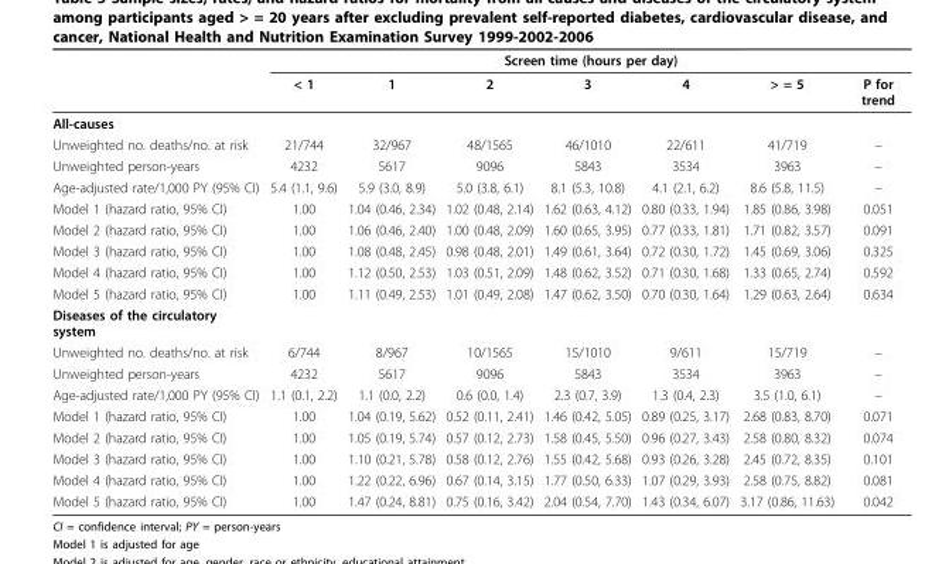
<table><thead><tr><td rowspan="2"></td><td colspan="7">Screen time (hours per day)</td></tr><tr><td>&lt; 1</td><td>1</td><td>2</td><td>3</td><td>4</td><td>&gt; = 5</td><td>P for trend</td></tr></thead><tbody><tr><td colspan="8">All-causes</td></tr><tr><td>Unweighted no. deaths/no. at risk</td><td>21/744</td><td>32/967</td><td>48/1565</td><td>46/1010</td><td>22/611</td><td>41/719</td><td>–</td></tr><tr><td>Unweighted person-years</td><td>4232</td><td>5617</td><td>9096</td><td>5843</td><td>3534</td><td>3963</td><td>–</td></tr><tr><td>Age-adjusted rate/1,000 PY (95% CI)</td><td>5.4 (1.1, 9.6)</td><td>5.9 (3.0, 8.9)</td><td>5.0 (3.8, 6.1)</td><td>8.1 (5.3, 10.8)</td><td>4.1 (2.1, 6.2)</td><td>8.6 (5.8, 11.5)</td><td>–</td></tr><tr><td>Model 1 (hazard ratio, 95% CI)</td><td>1.00</td><td>1.04 (0.46, 2.34)</td><td>1.02 (0.48, 2.14)</td><td>1.62 (0.63, 4.12)</td><td>0.80 (0.33, 1.94)</td><td>1.85 (0.86, 3.98)</td><td>0.051</td></tr><tr><td>Model 2 (hazard ratio, 95% CI)</td><td>1.00</td><td>1.06 (0.46, 2.40)</td><td>1.00 (0.48, 2.09)</td><td>1.60 (0.65, 3.95)</td><td>0.77 (0.33, 1.81)</td><td>1.71 (0.82, 3.57)</td><td>0.091</td></tr><tr><td>Model 3 (hazard ratio, 95% CI)</td><td>1.00</td><td>1.08 (0.48, 2.45)</td><td>0.98 (0.48, 2.01)</td><td>1.49 (0.61, 3.64)</td><td>0.72 (0.30, 1.72)</td><td>1.45 (0.69, 3.06)</td><td>0.325</td></tr><tr><td>Model 4 (hazard ratio, 95% CI)</td><td>1.00</td><td>1.12 (0.50, 2.53)</td><td>1.03 (0.51, 2.09)</td><td>1.48 (0.62, 3.52)</td><td>0.71 (0.30, 1.68)</td><td>1.33 (0.65, 2.74)</td><td>0.592</td></tr><tr><td>Model 5 (hazard ratio, 95% CI)</td><td>1.00</td><td>1.11 (0.49, 2.53)</td><td>1.01 (0.49, 2.08)</td><td>1.47 (0.62, 3.50)</td><td>0.70 (0.30, 1.64)</td><td>1.29 (0.63, 2.64)</td><td>0.634</td></tr><tr><td colspan="8">Diseases of the circulatory system</td></tr><tr><td>Unweighted no. deaths/no. at risk</td><td>6/744</td><td>8/967</td><td>10/1565</td><td>15/1010</td><td>9/611</td><td>15/719</td><td>–</td></tr><tr><td>Unweighted person-years</td><td>4232</td><td>5617</td><td>9096</td><td>5843</td><td>3534</td><td>3963</td><td>–</td></tr><tr><td>Age-adjusted rate/1,000 PY (95% CI)</td><td>1.1 (0.1, 2.2)</td><td>1.1 (0.0, 2.2)</td><td>0.6 (0.0, 1.4)</td><td>2.3 (0.7, 3.9)</td><td>1.3 (0.4, 2.3)</td><td>3.5 (1.0, 6.1)</td><td>–</td></tr><tr><td>Model 1 (hazard ratio, 95% CI)</td><td>1.00</td><td>1.04 (0.19, 5.62)</td><td>0.52 (0.11, 2.41)</td><td>1.46 (0.42, 5.05)</td><td>0.89 (0.25, 3.17)</td><td>2.68 (0.83, 8.70)</td><td>0.071</td></tr><tr><td>Model 2 (hazard ratio, 95% CI)</td><td>1.00</td><td>1.05 (0.19, 5.74)</td><td>0.57 (0.12, 2.73)</td><td>1.58 (0.45, 5.50)</td><td>0.96 (0.27, 3.43)</td><td>2.58 (0.80, 8.32)</td><td>0.074</td></tr><tr><td>Model 3 (hazard ratio, 95% CI)</td><td>1.00</td><td>1.10 (0.21, 5.78)</td><td>0.58 (0.12, 2.76)</td><td>1.55 (0.42, 5.68)</td><td>0.93 (0.26, 3.28)</td><td>2.45 (0.72, 8.35)</td><td>0.101</td></tr><tr><td>Model 4 (hazard ratio, 95% CI)</td><td>1.00</td><td>1.22 (0.22, 6.96)</td><td>0.67 (0.14, 3.15)</td><td>1.77 (0.50, 6.33)</td><td>1.07 (0.29, 3.93)</td><td>2.58 (0.75, 8.82)</td><td>0.081</td></tr><tr><td>Model 5 (hazard ratio, 95% CI)</td><td>1.00</td><td>1.47 (0.24, 8.81)</td><td>0.75 (0.16, 3.42)</td><td>2.04 (0.54, 7.70)</td><td>1.43 (0.34, 6.07)</td><td>3.17 (0.86, 11.63)</td><td>0.042</td></tr></tbody></table>